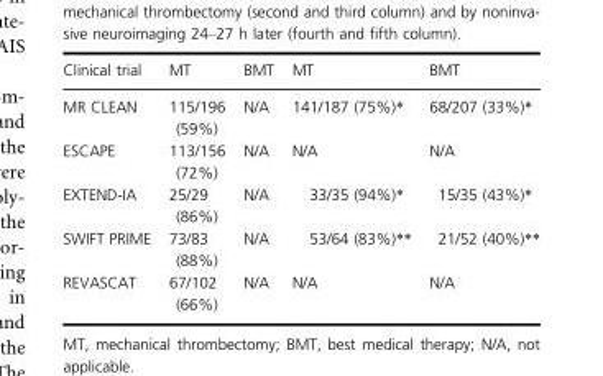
<table><thead><tr><td>Clinical trial</td><td>MT</td><td>BMT</td><td>MT</td><td>BMT</td></tr></thead><tbody><tr><td>MR CLEAN</td><td>115/196 (59%)</td><td>N/A</td><td>141/187 (75%)*</td><td>68/207 (33%)*</td></tr><tr><td>ESCAPE</td><td>113/156 (72%)</td><td>N/A</td><td>N/A</td><td>N/A</td></tr><tr><td>EXTEND-IA</td><td>25/29 (86%)</td><td>N/A</td><td>33/35 (94%)*</td><td>15/35 (43%)*</td></tr><tr><td>SWIFT PRIME</td><td>73/83 (88%)</td><td>N/A</td><td>53/64 (83%)**</td><td>21/52 (40%)**</td></tr><tr><td>REVASCAT</td><td>67/102 (66%)</td><td>N/A</td><td>N/A</td><td>N/A</td></tr></tbody></table>